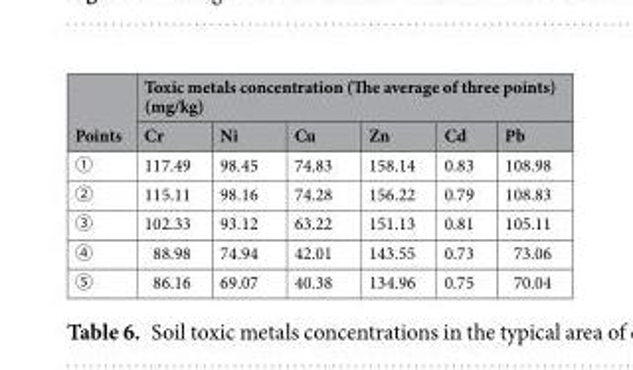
<table><thead><tr><td rowspan="2">Points</td><td colspan="6">Toxic metals concentration (The average of three points) (mg/kg)</td></tr><tr><td>Cr</td><td>Ni</td><td>Cu</td><td>Zn</td><td>Cd</td><td>Pb</td></tr></thead><tbody><tr><td>①</td><td>117.49</td><td>98.45</td><td>74.83</td><td>158.14</td><td>0.83</td><td>108.98</td></tr><tr><td>②</td><td>115.11</td><td>98.16</td><td>74.28</td><td>156.22</td><td>0.79</td><td>108.83</td></tr><tr><td>③</td><td>102.33</td><td>93.12</td><td>63.22</td><td>151.13</td><td>0.81</td><td>105.11</td></tr><tr><td>④</td><td>88.98</td><td>74.94</td><td>42.01</td><td>143.55</td><td>0.73</td><td>73.06</td></tr><tr><td>⑤</td><td>86.16</td><td>69.07</td><td>40.38</td><td>134.96</td><td>0.75</td><td>70.04</td></tr></tbody></table>